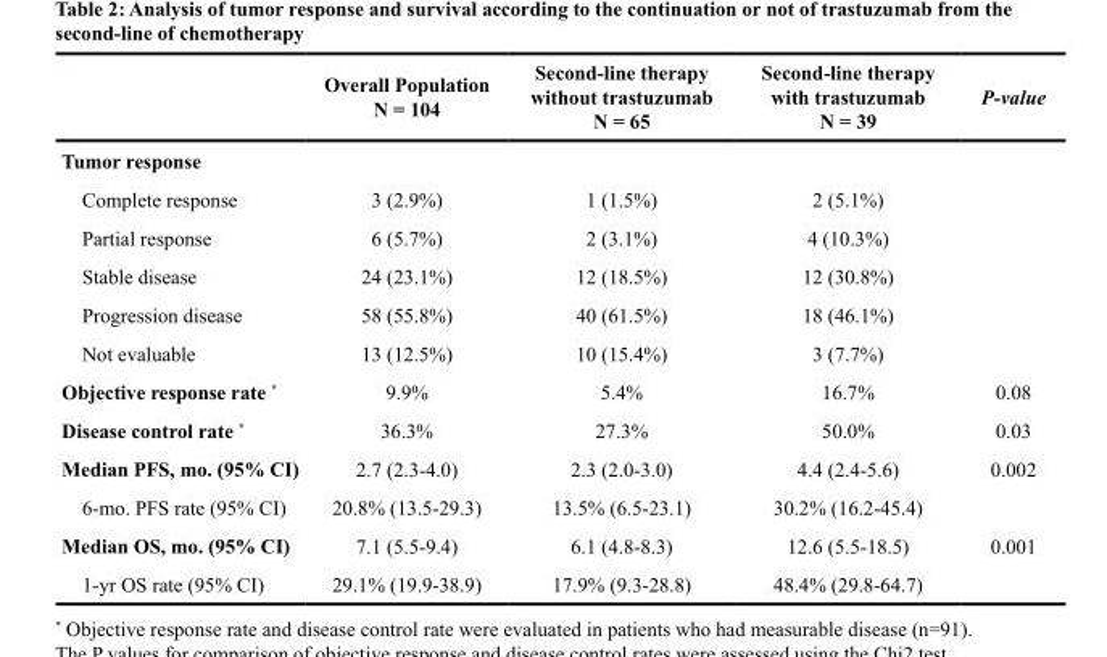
<table><thead><tr><td></td><td>Overall Population N = 104</td><td>Second-line therapy without trastuzumab N = 65</td><td>Second-line therapy with trastuzumab N = 39</td><td>P-value</td></tr></thead><tbody><tr><td colspan="5">Tumor response</td></tr><tr><td>Complete response</td><td>3 (2.9%)</td><td>1 (1.5%)</td><td>2 (5.1%)</td><td></td></tr><tr><td>Partial response</td><td>6 (5.7%)</td><td>2 (3.1%)</td><td>4 (10.3%)</td><td></td></tr><tr><td>Stable disease</td><td>24 (23.1%)</td><td>12 (18.5%)</td><td>12 (30.8%)</td><td></td></tr><tr><td>Progression disease</td><td>58 (55.8%)</td><td>40 (61.5%)</td><td>18 (46.1%)</td><td></td></tr><tr><td>Not evaluable</td><td>13 (12.5%)</td><td>10 (15.4%)</td><td>3 (7.7%)</td><td></td></tr><tr><td>Objective response rate *</td><td>9.9%</td><td>5.4%</td><td>16.7%</td><td>0.08</td></tr><tr><td>Disease control rate *</td><td>36.3%</td><td>27.3%</td><td>50.0%</td><td>0.03</td></tr><tr><td>Median PFS, mo. (95% CI)</td><td>2.7 (2.3-4.0)</td><td>2.3 (2.0-3.0)</td><td>4.4 (2.4-5.6)</td><td>0.002</td></tr><tr><td>6-mo. PFS rate (95% CI)</td><td>20.8% (13.5-29.3)</td><td>13.5% (6.5-23.1)</td><td>30.2% (16.2-45.4)</td><td></td></tr><tr><td>Median OS, mo. (95% CI)</td><td>7.1 (5.5-9.4)</td><td>6.1 (4.8-8.3)</td><td>12.6 (5.5-18.5)</td><td>0.001</td></tr><tr><td>1-yr OS rate (95% CI)</td><td>29.1% (19.9-38.9)</td><td>17.9% (9.3-28.8)</td><td>48.4% (29.8-64.7)</td><td></td></tr></tbody></table>